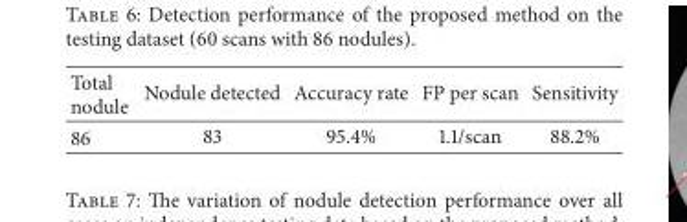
<table><thead><tr><td>Total nodule</td><td>Nodule detected</td><td>Accuracy rate</td><td>FP per scan</td><td>Sensitivity</td></tr></thead><tbody><tr><td>86</td><td>83</td><td>95.4%</td><td>1.1/scan</td><td>88.2%</td></tr></tbody></table>